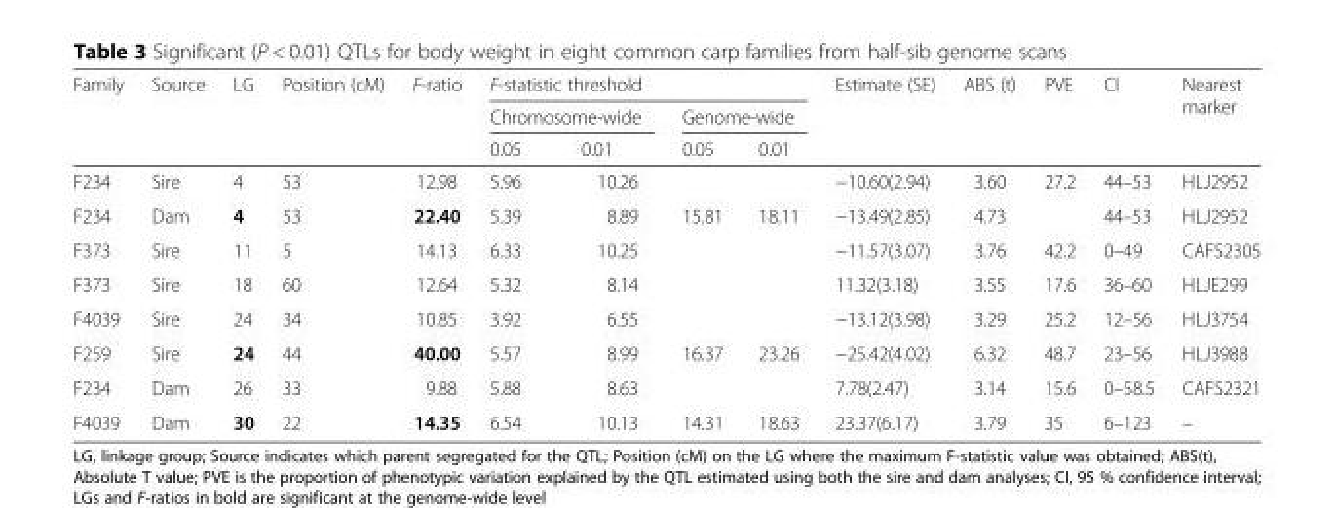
<table><thead><tr><td rowspan="3">Family</td><td rowspan="3">Source</td><td rowspan="3">LG</td><td rowspan="3">Position (cM)</td><td rowspan="3">F-ratio</td><td colspan="4">F-statistic threshold</td><td rowspan="3">Estimate (SE)</td><td rowspan="3">ABS (t)</td><td rowspan="3">PVE</td><td rowspan="3">CI</td><td rowspan="3">Nearest marker</td></tr><tr><td colspan="2">Chromosome-wide</td><td colspan="2">Genome-wide</td></tr><tr><td>0.05</td><td>0.01</td><td>0.05</td><td>0.01</td></tr></thead><tbody><tr><td>F234</td><td>Sire</td><td>4</td><td>53</td><td>12.98</td><td>5.96</td><td>10.26</td><td></td><td></td><td>−10.60(2.94)</td><td>3.60</td><td rowspan="2">27.2</td><td>44–53</td><td>HLJ2952</td></tr><tr><td>F234</td><td>Dam</td><td>4</td><td>53</td><td>22.40</td><td>5.39</td><td>8.89</td><td>15.81</td><td>18.11</td><td>−13.49(2.85)</td><td>4.73</td><td>44–53</td><td>HLJ2952</td></tr><tr><td>F373</td><td>Sire</td><td>11</td><td>5</td><td>14.13</td><td>6.33</td><td>10.25</td><td></td><td></td><td>−11.57(3.07)</td><td>3.76</td><td>42.2</td><td>0–49</td><td>CAFS2305</td></tr><tr><td>F373</td><td>Sire</td><td>18</td><td>60</td><td>12.64</td><td>5.32</td><td>8.14</td><td></td><td></td><td>11.32(3.18)</td><td>3.55</td><td>17.6</td><td>36–60</td><td>HLJE299</td></tr><tr><td>F4039</td><td>Sire</td><td>24</td><td>34</td><td>10.85</td><td>3.92</td><td>6.55</td><td></td><td></td><td>−13.12(3.98)</td><td>3.29</td><td>25.2</td><td>12–56</td><td>HLJ3754</td></tr><tr><td>F259</td><td>Sire</td><td>24</td><td>44</td><td>40.00</td><td>5.57</td><td>8.99</td><td>16.37</td><td>23.26</td><td>−25.42(4.02)</td><td>6.32</td><td>48.7</td><td>23–56</td><td>HLJ3988</td></tr><tr><td>F234</td><td>Dam</td><td>26</td><td>33</td><td>9.88</td><td>5.88</td><td>8.63</td><td></td><td></td><td>7.78(2.47)</td><td>3.14</td><td>15.6</td><td>0–58.5</td><td>CAFS2321</td></tr><tr><td>F4039</td><td>Dam</td><td>30</td><td>22</td><td>14.35</td><td>6.54</td><td>10.13</td><td>14.31</td><td>18.63</td><td>23.37(6.17)</td><td>3.79</td><td>35</td><td>6–123</td><td>–</td></tr></tbody></table>